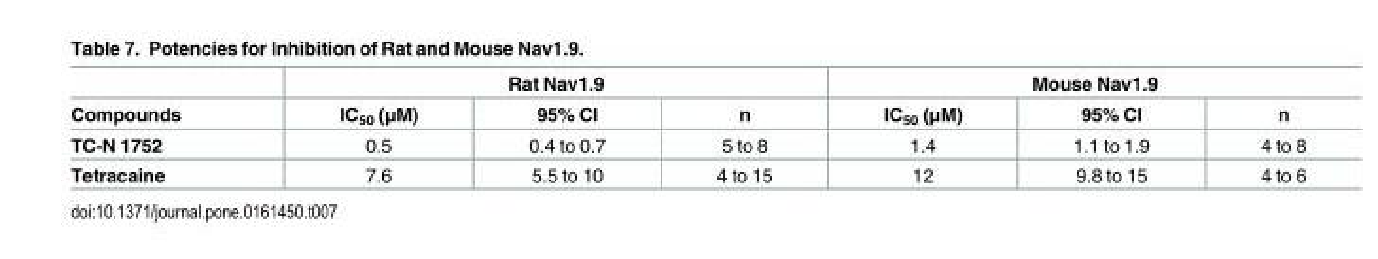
<table><thead><tr><td rowspan="2">Compounds</td><td colspan="3">Rat Nav1.9</td><td colspan="3">Mouse Nav1.9</td></tr><tr><td>IC<sub>50</sub> (μM)</td><td>95% CI</td><td>n</td><td>IC<sub>50</sub> (μM)</td><td>95% CI</td><td>n</td></tr></thead><tbody><tr><td>TC-N 1752</td><td>0.5</td><td>0.4 to 0.7</td><td>5 to 8</td><td>1.4</td><td>1.1 to 1.9</td><td>4 to 8</td></tr><tr><td>Tetracaine</td><td>7.6</td><td>5.5 to 10</td><td>4 to 15</td><td>12</td><td>9.8 to 15</td><td>4 to 6</td></tr></tbody></table>